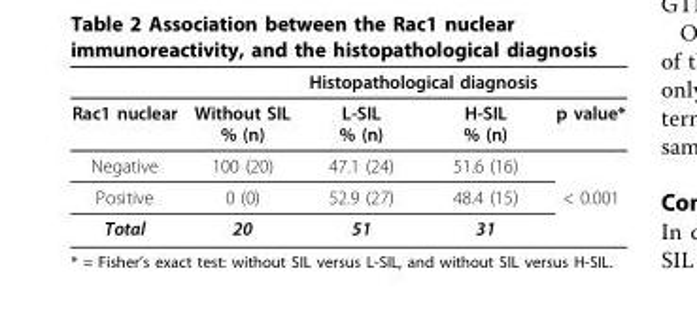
<table><thead><tr><td rowspan="2">Rac1 nuclear</td><td rowspan="2">Without SIL % (n)</td><td colspan="2">Histopathological diagnosis</td><td rowspan="2">p value*</td></tr><tr><td>L-SIL % (n)</td><td>H-SIL % (n)</td></tr></thead><tbody><tr><td>Negative</td><td>100 (20)</td><td>47.1 (24)</td><td>51.6 (16)</td><td></td></tr><tr><td>Positive</td><td>0 (0)</td><td>52.9 (27)</td><td>48.4 (15)</td><td>&lt; 0.001</td></tr><tr><td>Total</td><td>20</td><td>51</td><td>31</td><td></td></tr></tbody></table>